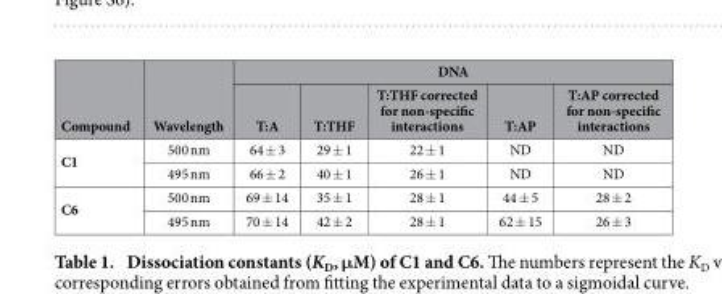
<table><thead><tr><td rowspan="2">Compound</td><td rowspan="2">Wavelength</td><td colspan="5">DNA</td></tr><tr><td>T:A</td><td>T:THF</td><td>T:THF corrected for non-specific interactions</td><td>T:AP</td><td>T:AP corrected for non-specific interactions</td></tr></thead><tbody><tr><td rowspan="2">C1</td><td>500 nm</td><td>64 ± 3</td><td>29 ± 1</td><td>22 ± 1</td><td>ND</td><td>ND</td></tr><tr><td>495 nm</td><td>66 ± 2</td><td>40 ± 1</td><td>26 ± 1</td><td>ND</td><td>ND</td></tr><tr><td rowspan="2">C6</td><td>500 nm</td><td>69 ± 14</td><td>35 ± 1</td><td>28 ± 1</td><td>44 ± 5</td><td>28 ± 2</td></tr><tr><td>495 nm</td><td>70 ± 14</td><td>42 ± 2</td><td>28 ± 1</td><td>62 ± 15</td><td>26 ± 3</td></tr></tbody></table>